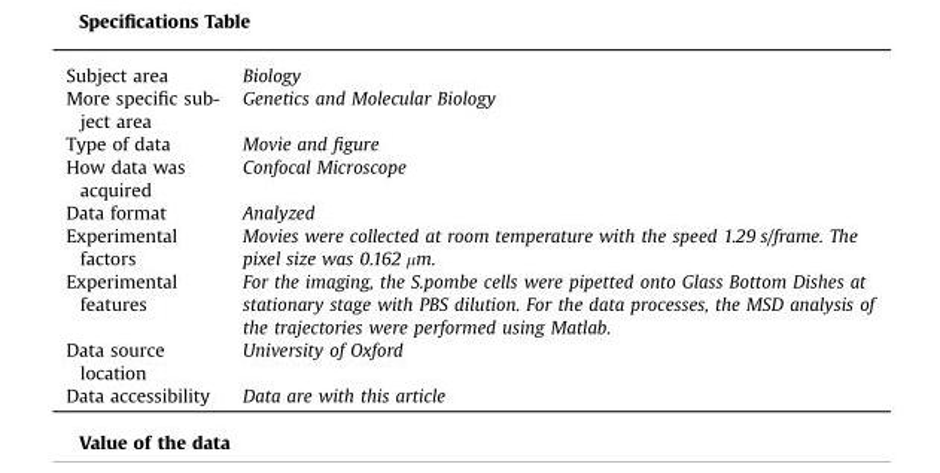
<table><tbody><tr><td>Subject area</td><td>Biology</td></tr><tr><td>More specific sub- ject area</td><td>Genetics and Molecular Biology</td></tr><tr><td>Type of data</td><td>Movie and figure</td></tr><tr><td>How data was acquired</td><td>Confocal Microscope</td></tr><tr><td>Data format</td><td>Analyzed</td></tr><tr><td>Experimental factors</td><td>Movies were collected at room temperature with the speed 1.29 s/frame. The pixel size was 0.162 µm.</td></tr><tr><td>Experimental features</td><td>For the imaging, the S.pombe cells were pipetted onto Glass Bottom Dishes at stationary stage with PBS dilution. For the data processes, the MSD analysis of the trajectories were performed using Matlab.</td></tr><tr><td>Data source location</td><td>University of Oxford</td></tr><tr><td>Data accessibility</td><td>Data are with this article</td></tr></tbody></table>